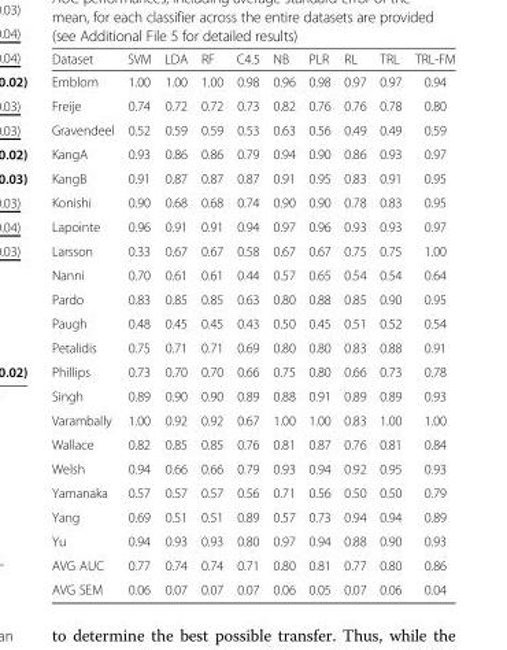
<table><thead><tr><td>Dataset</td><td>SVM</td><td>LDA</td><td>RF</td><td>C4.5</td><td>NB</td><td>PLR</td><td>RL</td><td>TRL</td><td>TRL-FM</td></tr></thead><tbody><tr><td>Emblom</td><td>1.00</td><td>1.00</td><td>1.00</td><td>0.98</td><td>0.96</td><td>0.98</td><td>0.97</td><td>0.97</td><td>0.94</td></tr><tr><td>Freije</td><td>0.74</td><td>0.72</td><td>0.72</td><td>0.73</td><td>0.82</td><td>0.76</td><td>0.76</td><td>0.78</td><td>0.80</td></tr><tr><td>Gravendeel</td><td>0.52</td><td>0.59</td><td>0.59</td><td>0.53</td><td>0.63</td><td>0.56</td><td>0.49</td><td>0.49</td><td>0.59</td></tr><tr><td>KangA</td><td>0.93</td><td>0.86</td><td>0.86</td><td>0.79</td><td>0.94</td><td>0.90</td><td>0.86</td><td>0.93</td><td>0.97</td></tr><tr><td>KangB</td><td>0.91</td><td>0.87</td><td>0.87</td><td>0.87</td><td>0.91</td><td>0.95</td><td>0.83</td><td>0.91</td><td>0.95</td></tr><tr><td>Konishi</td><td>0.90</td><td>0.68</td><td>0.68</td><td>0.74</td><td>0.90</td><td>0.90</td><td>0.78</td><td>0.83</td><td>0.95</td></tr><tr><td>Lapointe</td><td>0.96</td><td>0.91</td><td>0.91</td><td>0.94</td><td>0.97</td><td>0.96</td><td>0.93</td><td>0.93</td><td>0.97</td></tr><tr><td>Larsson</td><td>0.33</td><td>0.67</td><td>0.67</td><td>0.58</td><td>0.67</td><td>0.67</td><td>0.75</td><td>0.75</td><td>1.00</td></tr><tr><td>Nanni</td><td>0.70</td><td>0.61</td><td>0.61</td><td>0.44</td><td>0.57</td><td>0.65</td><td>0.54</td><td>0.54</td><td>0.64</td></tr><tr><td>Pardo</td><td>0.83</td><td>0.85</td><td>0.85</td><td>0.63</td><td>0.80</td><td>0.88</td><td>0.85</td><td>0.90</td><td>0.95</td></tr><tr><td>Paugh</td><td>0.48</td><td>0.45</td><td>0.45</td><td>0.43</td><td>0.50</td><td>0.45</td><td>0.51</td><td>0.52</td><td>0.54</td></tr><tr><td>Petalidis</td><td>0.75</td><td>0.71</td><td>0.71</td><td>0.69</td><td>0.80</td><td>0.80</td><td>0.83</td><td>0.88</td><td>0.91</td></tr><tr><td>Phillips</td><td>0.73</td><td>0.70</td><td>0.70</td><td>0.66</td><td>0.75</td><td>0.80</td><td>0.66</td><td>0.73</td><td>0.78</td></tr><tr><td>Singh</td><td>0.89</td><td>0.90</td><td>0.90</td><td>0.89</td><td>0.88</td><td>0.91</td><td>0.89</td><td>0.89</td><td>0.93</td></tr><tr><td>Varambally</td><td>1.00</td><td>0.92</td><td>0.92</td><td>0.67</td><td>1.00</td><td>1.00</td><td>0.83</td><td>1.00</td><td>1.00</td></tr><tr><td>Wallace</td><td>0.82</td><td>0.85</td><td>0.85</td><td>0.76</td><td>0.81</td><td>0.87</td><td>0.76</td><td>0.81</td><td>0.84</td></tr><tr><td>Welsh</td><td>0.94</td><td>0.66</td><td>0.66</td><td>0.79</td><td>0.93</td><td>0.94</td><td>0.92</td><td>0.95</td><td>0.93</td></tr><tr><td>Yamanaka</td><td>0.57</td><td>0.57</td><td>0.57</td><td>0.56</td><td>0.71</td><td>0.56</td><td>0.50</td><td>0.50</td><td>0.79</td></tr><tr><td>Yang</td><td>0.69</td><td>0.51</td><td>0.51</td><td>0.89</td><td>0.57</td><td>0.73</td><td>0.94</td><td>0.94</td><td>0.89</td></tr><tr><td>Yu</td><td>0.94</td><td>0.93</td><td>0.93</td><td>0.80</td><td>0.97</td><td>0.94</td><td>0.88</td><td>0.90</td><td>0.93</td></tr><tr><td>AVG AUC</td><td>0.77</td><td>0.74</td><td>0.74</td><td>0.71</td><td>0.80</td><td>0.81</td><td>0.77</td><td>0.80</td><td>0.86</td></tr><tr><td>AVG SEM</td><td>0.06</td><td>0.07</td><td>0.07</td><td>0.07</td><td>0.06</td><td>0.05</td><td>0.07</td><td>0.06</td><td>0.04</td></tr></tbody></table>